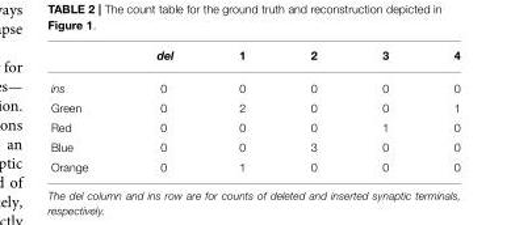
<table><thead><tr><td></td><td>del</td><td>1</td><td>2</td><td>3</td><td>4</td></tr></thead><tbody><tr><td>ins</td><td>0</td><td>0</td><td>0</td><td>0</td><td>0</td></tr><tr><td>Green</td><td>0</td><td>2</td><td>0</td><td>0</td><td>1</td></tr><tr><td>Red</td><td>0</td><td>0</td><td>0</td><td>1</td><td>0</td></tr><tr><td>Blue</td><td>0</td><td>0</td><td>3</td><td>0</td><td>0</td></tr><tr><td>Orange</td><td>0</td><td>1</td><td>0</td><td>0</td><td>0</td></tr></tbody></table>